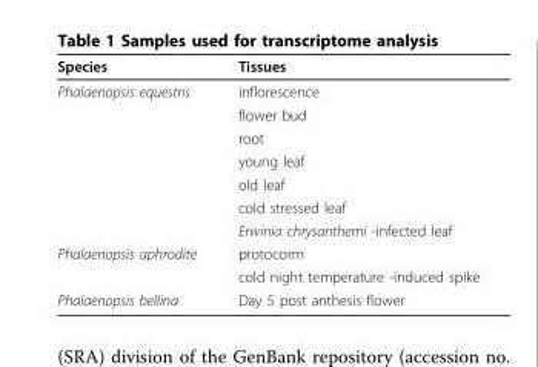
<table><thead><tr><td>Species</td><td>Tissues</td></tr></thead><tbody><tr><td rowspan="7">Phalaenopsis equestris</td><td>inflorescence</td></tr><tr><td>flower bud</td></tr><tr><td>root</td></tr><tr><td>young leaf</td></tr><tr><td>old leaf</td></tr><tr><td>cold stressed leaf</td></tr><tr><td>Erwinia chrysanthemi -infected leaf</td></tr><tr><td rowspan="2">Phalaenopsis aphrodite</td><td>protocorm</td></tr><tr><td>cold night temperature -induced spike</td></tr><tr><td>Phalaenopsis bellina</td><td>Day 5 post anthesis flower</td></tr></tbody></table>